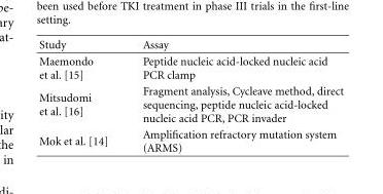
<table><thead><tr><td>Study</td><td>Assay</td></tr></thead><tbody><tr><td>Maemondo et al. [15]</td><td>Peptide nucleic acid-locked nucleic acid PCR clamp</td></tr><tr><td>Mitsudomi et al. [16]</td><td>Fragment analysis, Cycleave method, direct sequencing, peptide nucleic acid-locked nucleic acid PCR, PCR invader</td></tr><tr><td>Mok et al. [14]</td><td>Amplification refractory mutation system (ARMS)</td></tr></tbody></table>